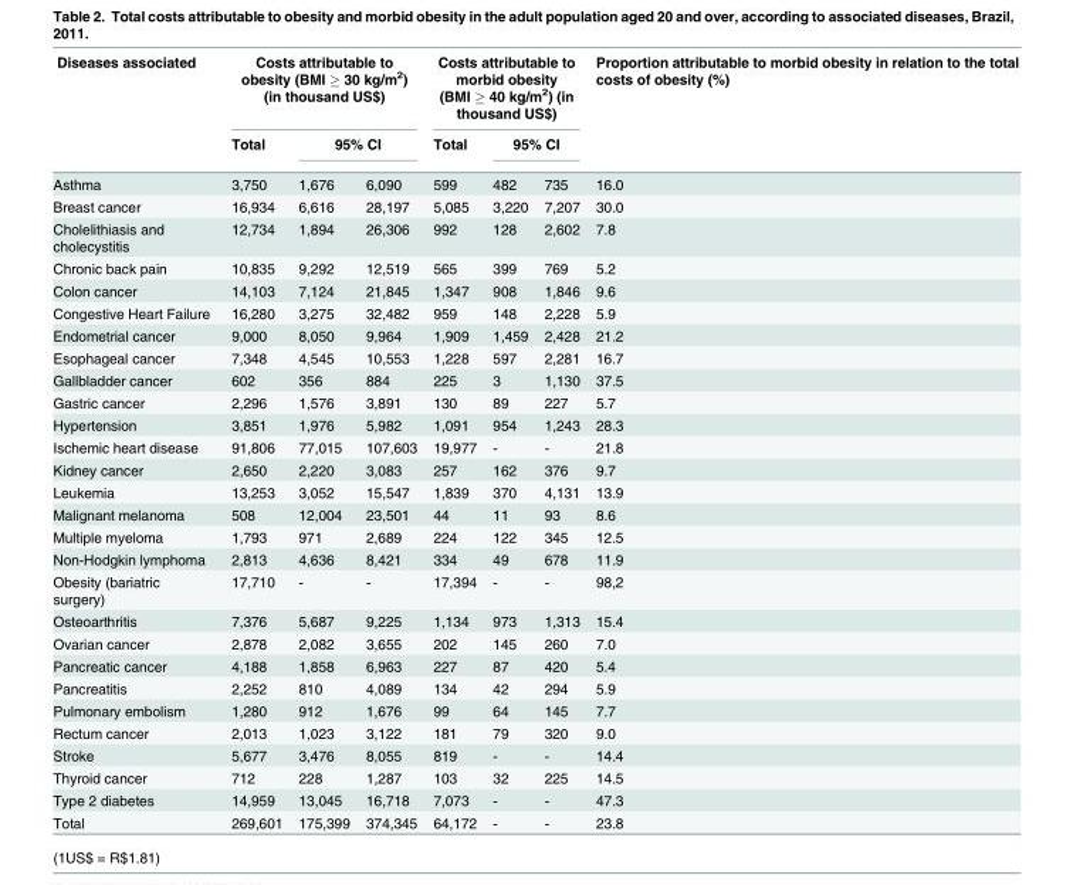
<table><thead><tr><td rowspan="3">Diseases associated Asthma</td><td colspan="3">Costs attributable to obesity (BMI ≥ 30 kg/m<sup>2</sup>) (in thousand US$)</td><td colspan="3">Costs attributable to morbid obesity (BMI ≥ 40 kg/m<sup>2</sup>) (in thousand US$)</td><td rowspan="3">Proportion attributable to morbid obesity in relation to the total costs of obesity (%) 16.0</td></tr><tr><td rowspan="2">Total 3,750</td><td colspan="2">95% CI</td><td rowspan="2">Total 599</td><td colspan="2">95% CI</td></tr><tr><td>1,676</td><td>6,090</td><td>482</td><td>735</td></tr></thead><tbody><tr><td>Breast cancer</td><td>16,934</td><td>6,616</td><td>28,197</td><td>5,085</td><td>3,220</td><td>7,207</td><td>30.0</td></tr><tr><td>Cholelithiasis and cholecystitis</td><td>12,734</td><td>1,894</td><td>26,306</td><td>992</td><td>128</td><td>2,602</td><td>7.8</td></tr><tr><td>Chronic back pain</td><td>10,835</td><td>9,292</td><td>12,519</td><td>565</td><td>399</td><td>769</td><td>5.2</td></tr><tr><td>Colon cancer</td><td>14,103</td><td>7,124</td><td>21,845</td><td>1,347</td><td>908</td><td>1,846</td><td>9.6</td></tr><tr><td>Congestive Heart Failure</td><td>16,280</td><td>3,275</td><td>32,482</td><td>959</td><td>148</td><td>2,228</td><td>5.9</td></tr><tr><td>Endometrial cancer</td><td>9,000</td><td>8,050</td><td>9,964</td><td>1,909</td><td>1,459</td><td>2,428</td><td>21.2</td></tr><tr><td>Esophageal cancer</td><td>7,348</td><td>4,545</td><td>10,553</td><td>1,228</td><td>597</td><td>2,281</td><td>16.7</td></tr><tr><td>Gallbladder cancer</td><td>602</td><td>356</td><td>884</td><td>225</td><td>3</td><td>1,130</td><td>37.5</td></tr><tr><td>Gastric cancer</td><td>2,296</td><td>1,576</td><td>3,891</td><td>130</td><td>89</td><td>227</td><td>5.7</td></tr><tr><td>Hypertension</td><td>3,851</td><td>1,976</td><td>5,982</td><td>1,091</td><td>954</td><td>1,243</td><td>28.3</td></tr><tr><td>Ischemic heart disease</td><td>91,806</td><td>77,015</td><td>107,603</td><td>19,977</td><td>-</td><td>-</td><td>21.8</td></tr><tr><td>Kidney cancer</td><td>2,650</td><td>2,220</td><td>3,083</td><td>257</td><td>162</td><td>376</td><td>9.7</td></tr><tr><td>Leukemia</td><td>13,253</td><td>3,052</td><td>15,547</td><td>1,839</td><td>370</td><td>4,131</td><td>13.9</td></tr><tr><td>Malignant melanoma</td><td>508</td><td>12,004</td><td>23,501</td><td>44</td><td>11</td><td>93</td><td>8.6</td></tr><tr><td>Multiple myeloma</td><td>1,793</td><td>971</td><td>2,689</td><td>224</td><td>122</td><td>345</td><td>12.5</td></tr><tr><td>Non-Hodgkin lymphoma</td><td>2,813</td><td>4,636</td><td>8,421</td><td>334</td><td>49</td><td>678</td><td>11.9</td></tr><tr><td>Obesity (bariatric surgery)</td><td>17,710</td><td>-</td><td>-</td><td>17,394</td><td>-</td><td>-</td><td>98,2</td></tr><tr><td>Osteoarthritis</td><td>7,376</td><td>5,687</td><td>9,225</td><td>1,134</td><td>973</td><td>1,313</td><td>15.4</td></tr><tr><td>Ovarian cancer</td><td>2,878</td><td>2,082</td><td>3,655</td><td>202</td><td>145</td><td>260</td><td>7.0</td></tr><tr><td>Pancreatic cancer</td><td>4,188</td><td>1,858</td><td>6,963</td><td>227</td><td>87</td><td>420</td><td>5.4</td></tr><tr><td>Pancreatitis</td><td>2,252</td><td>810</td><td>4,089</td><td>134</td><td>42</td><td>294</td><td>5.9</td></tr><tr><td>Pulmonary embolism</td><td>1,280</td><td>912</td><td>1,676</td><td>99</td><td>64</td><td>145</td><td>7.7</td></tr><tr><td>Rectum cancer</td><td>2,013</td><td>1,023</td><td>3,122</td><td>181</td><td>79</td><td>320</td><td>9.0</td></tr><tr><td>Stroke</td><td>5,677</td><td>3,476</td><td>8,055</td><td>819</td><td>-</td><td>-</td><td>14.4</td></tr><tr><td>Thyroid cancer</td><td>712</td><td>228</td><td>1,287</td><td>103</td><td>32</td><td>225</td><td>14.5</td></tr><tr><td>Type 2 diabetes</td><td>14,959</td><td>13,045</td><td>16,718</td><td>7,073</td><td>-</td><td>-</td><td>47.3</td></tr><tr><td>Total</td><td>269,601</td><td>175,399</td><td>374,345</td><td>64,172</td><td>-</td><td>-</td><td>23.8</td></tr></tbody></table>